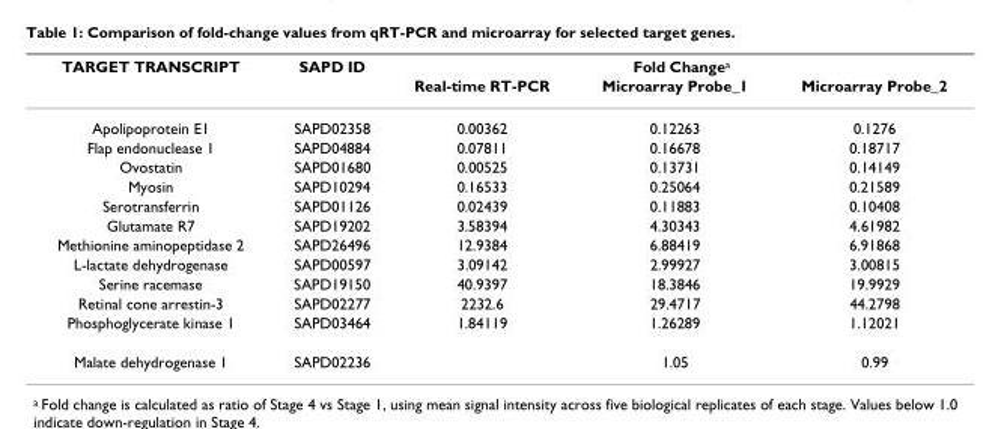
<table><thead><tr><td rowspan="2">TARGET TRANSCRIPT</td><td rowspan="2">SAPD ID</td><td colspan="3">Fold Change<sup>a</sup></td></tr><tr><td>Real-time RT-PCR</td><td>Microarray Probe_1</td><td>Microarray Probe_2</td></tr></thead><tbody><tr><td>Apolipoprotein E1</td><td>SAPD02358</td><td>0.00362</td><td>0.12263</td><td>0.1276</td></tr><tr><td>Flap endonuclease 1</td><td>SAPD04884</td><td>0.07811</td><td>0.16678</td><td>0.18717</td></tr><tr><td>Ovostatin</td><td>SAPD01680</td><td>0.00525</td><td>0.13731</td><td>0.14149</td></tr><tr><td>Myosin</td><td>SAPD10294</td><td>0.16533</td><td>0.25064</td><td>0.21589</td></tr><tr><td>Serotransferrin</td><td>SAPD01126</td><td>0.02439</td><td>0.11883</td><td>0.10408</td></tr><tr><td>Glutamate R7</td><td>SAPD19202</td><td>3.58394</td><td>4.30343</td><td>4.61982</td></tr><tr><td>Methionine aminopeptidase 2</td><td>SAPD26496</td><td>12.9384</td><td>6.88419</td><td>6.91868</td></tr><tr><td>L-lactate dehydrogenase</td><td>SAPD00597</td><td>3.09142</td><td>2.99927</td><td>3.00815</td></tr><tr><td>Serine racemase</td><td>SAPD19150</td><td>40.9397</td><td>18.3846</td><td>19.9929</td></tr><tr><td>Retinal cone arrestin-3</td><td>SAPD02277</td><td>2232.6</td><td>29.4717</td><td>44.2798</td></tr><tr><td>Phosphoglycerate kinase 1</td><td>SAPD03464</td><td>1.84119</td><td>1.26289</td><td>1.12021</td></tr><tr><td>Malate dehydrogenase 1</td><td>SAPD02236</td><td></td><td>1.05</td><td>0.99</td></tr></tbody></table>